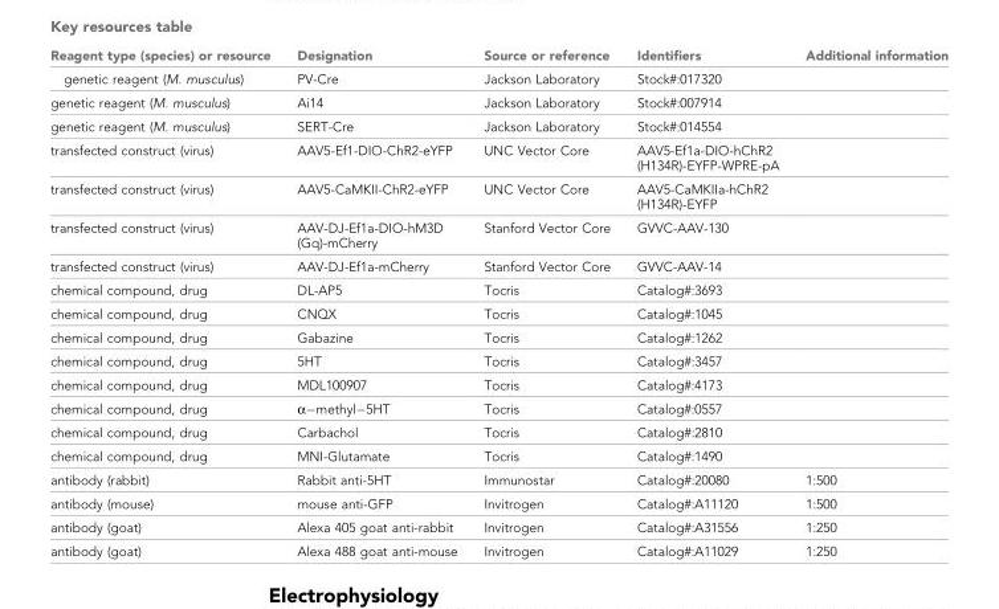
<table><thead><tr><td>Reagent type (species) or resource</td><td>Designation</td><td>Source or reference</td><td>Identifiers</td><td>Additional information</td></tr></thead><tbody><tr><td>genetic reagent (M. musculus)</td><td>PV-Cre</td><td>Jackson Laboratory</td><td>Stock#:017320</td><td></td></tr><tr><td>genetic reagent (M. musculus)</td><td>Ai14</td><td>Jackson Laboratory</td><td>Stock#:007914</td><td></td></tr><tr><td>genetic reagent (M. musculus)</td><td>SERT-Cre</td><td>Jackson Laboratory</td><td>Stock#:014554</td><td></td></tr><tr><td>transfected construct (virus)</td><td>AAV5-Ef1-DIO-ChR2-eYFP</td><td>UNC Vector Core</td><td>AAV5-Ef1a-DIO-hChR2 (H134R)-EYFP-WPRE-pA</td><td></td></tr><tr><td>transfected construct (virus)</td><td>AAV5-CaMKII-ChR2-eYFP</td><td>UNC Vector Core</td><td>AAV5-CaMKIIa-hChR2 (H134R)-EYFP</td><td></td></tr><tr><td>transfected construct (virus)</td><td>AAV-DJ-Ef1a-DIO-hM3D (Gq)-mCherry</td><td>Stanford Vector Core</td><td>GVVC-AAV-130</td><td></td></tr><tr><td>transfected construct (virus)</td><td>AAV-DJ-Ef1a-mCherry</td><td>Stanford Vector Core</td><td>GVVC-AAV-14</td><td></td></tr><tr><td>chemical compound, drug</td><td>DL-AP5</td><td>Tocris</td><td>Catalog#:3693</td><td></td></tr><tr><td>chemical compound, drug</td><td>CNQX</td><td>Tocris</td><td>Catalog#:1045</td><td></td></tr><tr><td>chemical compound, drug</td><td>Gabazine</td><td>Tocris</td><td>Catalog#:1262</td><td></td></tr><tr><td>chemical compound, drug</td><td>5HT</td><td>Tocris</td><td>Catalog#:3457</td><td></td></tr><tr><td>chemical compound, drug</td><td>MDL100907</td><td>Tocris</td><td>Catalog#:4173</td><td></td></tr><tr><td>chemical compound, drug</td><td>α−methyl−5HT</td><td>Tocris</td><td>Catalog#:0557</td><td></td></tr><tr><td>chemical compound, drug</td><td>Carbachol</td><td>Tocris</td><td>Catalog#:2810</td><td></td></tr><tr><td>chemical compound, drug</td><td>MNI-Glutamate</td><td>Tocris</td><td>Catalog#:1490</td><td></td></tr><tr><td>antibody (rabbit)</td><td>Rabbit anti-5HT</td><td>Immunostar</td><td>Catalog#:20080</td><td>1:500</td></tr><tr><td>antibody (mouse)</td><td>mouse anti-GFP</td><td>Invitrogen</td><td>Catalog#:A11120</td><td>1:500</td></tr><tr><td>antibody (goat)</td><td>Alexa 405 goat anti-rabbit</td><td>Invitrogen</td><td>Catalog#:A31556</td><td>1:250</td></tr><tr><td>antibody (goat)</td><td>Alexa 488 goat anti-mouse</td><td>Invitrogen</td><td>Catalog#:A11029</td><td>1:250</td></tr></tbody></table>